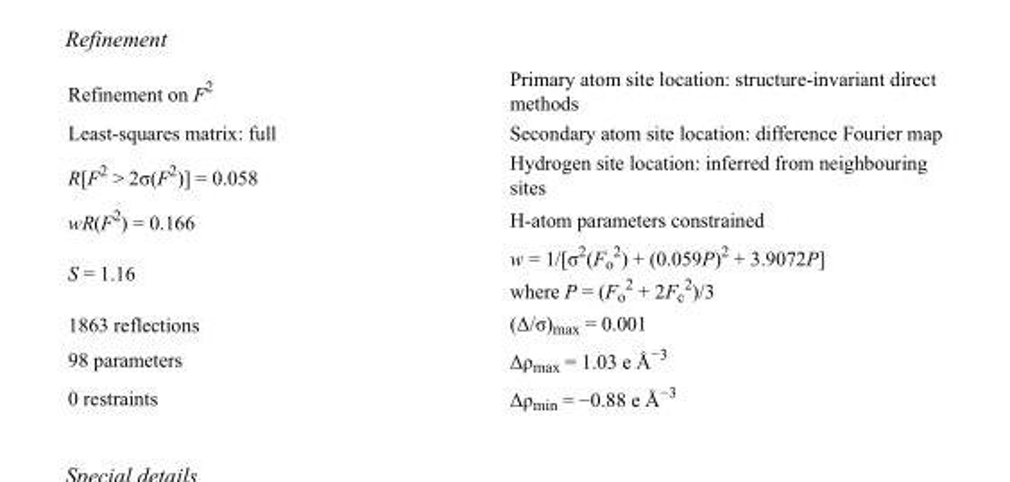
<table><tbody><tr><td>Refinement on F<sup>2</sup></td><td>Primary atom site location: structure-invariant direct methods</td></tr><tr><td>Least-squares matrix: full</td><td>Secondary atom site location: difference Fourier map</td></tr><tr><td>R[F<sup>2</sup> &gt; 2σ(F<sup>2</sup>)] = 0.058</td><td>Hydrogen site location: inferred from neighbouring sites</td></tr><tr><td>wR(F<sup>2</sup>) = 0.166</td><td>H-atom parameters constrained</td></tr><tr><td>S = 1.16</td><td>w = 1/[σ<sup>2</sup>(F<sub>o</sub> <sup>2</sup>) + (0.059P)<sup>2</sup> + 3.9072P] where P = (F<sub>o</sub> <sup>2</sup> + 2F<sub>c</sub> <sup>2</sup>)/3</td></tr><tr><td>1863 reflections</td><td>(Δ/σ)<sub>max</sub> = 0.001</td></tr><tr><td>98 parameters</td><td>Δρmax = 1.03 e Å−3</td></tr><tr><td>0 restraints</td><td>Δρ<sub>min</sub> = −0.88 e Å<sup>−3</sup></td></tr></tbody></table>